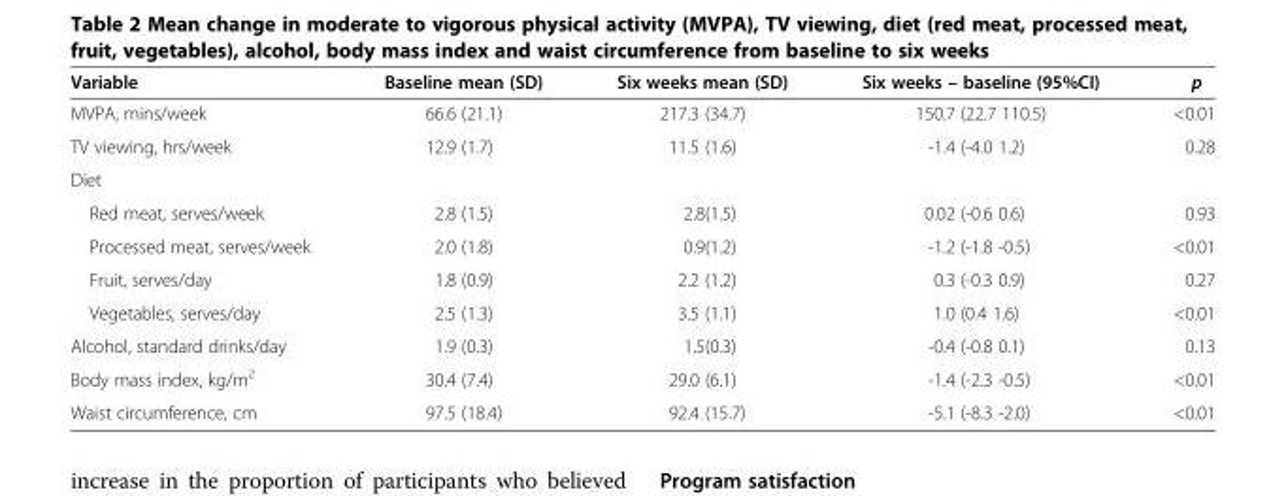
<table><thead><tr><td>Variable</td><td>Baseline mean (SD)</td><td>Six weeks mean (SD)</td><td>Six weeks – baseline (95%CI)</td><td>p</td></tr></thead><tbody><tr><td>MVPA, mins/week</td><td>66.6 (21.1)</td><td>217.3 (34.7)</td><td>150.7 (22.7 110.5)</td><td>&lt;0.01</td></tr><tr><td>TV viewing, hrs/week</td><td>12.9 (1.7)</td><td>11.5 (1.6)</td><td>-1.4 (-4.0 1.2)</td><td>0.28</td></tr><tr><td colspan="5">Diet</td></tr><tr><td>Red meat, serves/week</td><td>2.8 (1.5)</td><td>2.8(1.5)</td><td>0.02 (-0.6 0.6)</td><td>0.93</td></tr><tr><td>Processed meat, serves/week</td><td>2.0 (1.8)</td><td>0.9(1.2)</td><td>-1.2 (-1.8 -0.5)</td><td>&lt;0.01</td></tr><tr><td>Fruit, serves/day</td><td>1.8 (0.9)</td><td>2.2 (1.2)</td><td>0.3 (-0.3 0.9)</td><td>0.27</td></tr><tr><td>Vegetables, serves/day</td><td>2.5 (1.3)</td><td>3.5 (1.1)</td><td>1.0 (0.4 1.6)</td><td>&lt;0.01</td></tr><tr><td>Alcohol, standard drinks/day</td><td>1.9 (0.3)</td><td>1.5(0.3)</td><td>-0.4 (-0.8 0.1)</td><td>0.13</td></tr><tr><td>Body mass index, kg/m<sup>2</sup></td><td>30.4 (7.4)</td><td>29.0 (6.1)</td><td>-1.4 (-2.3 -0.5)</td><td>&lt;0.01</td></tr><tr><td>Waist circumference, cm</td><td>97.5 (18.4)</td><td>92.4 (15.7)</td><td>-5.1 (-8.3 -2.0)</td><td>&lt;0.01</td></tr></tbody></table>